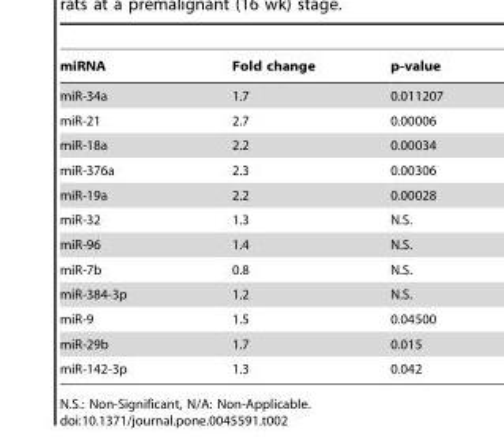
<table><thead><tr><td>miRNA</td><td>Fold change</td><td>p-value</td></tr></thead><tbody><tr><td>miR-34a</td><td>1.7</td><td>0.011207</td></tr><tr><td>miR-21</td><td>2.7</td><td>0.00006</td></tr><tr><td>miR-18a</td><td>2.2</td><td>0.00034</td></tr><tr><td>miR-376a</td><td>2.3</td><td>0.00306</td></tr><tr><td>miR-19a</td><td>2.2</td><td>0.00028</td></tr><tr><td>miR-32</td><td>1.3</td><td>N.S.</td></tr><tr><td>miR-96</td><td>1.4</td><td>N.S.</td></tr><tr><td>miR-7b</td><td>0.8</td><td>N.S.</td></tr><tr><td>miR-384-3p</td><td>1.2</td><td>N.S.</td></tr><tr><td>miR-9</td><td>1.5</td><td>0.04500</td></tr><tr><td>miR-29b</td><td>1.7</td><td>0.015</td></tr><tr><td>miR-142-3p</td><td>1.3</td><td>0.042</td></tr></tbody></table>